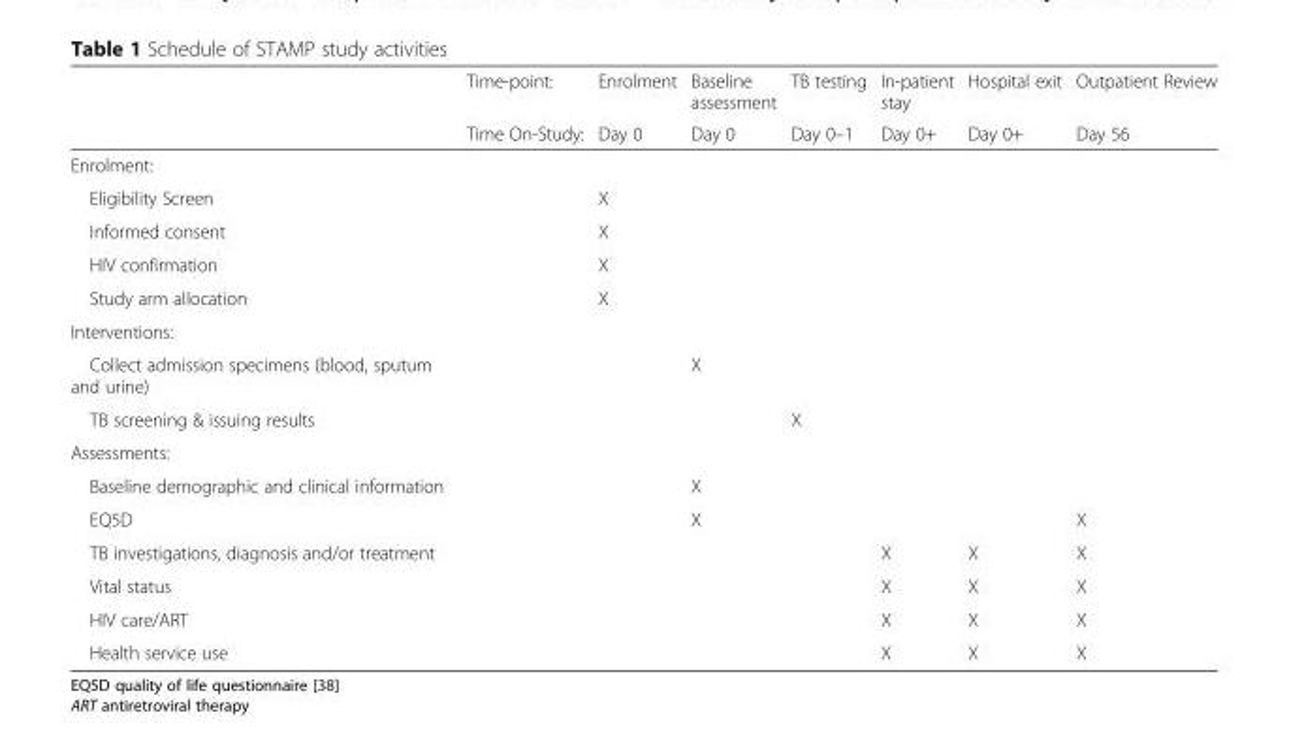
<table><thead><tr><td rowspan="2"></td><td rowspan="2">Time-point: Time On-Study:</td><td rowspan="2">Enrolment Day 0</td><td rowspan="2">Baseline assessment Day 0</td><td rowspan="2">TB testing Day 0–1</td><td rowspan="2">In-patient stay Day 0+</td><td rowspan="2">Hospital exit Day 0+</td><td rowspan="2">Outpatient Review Day 56</td></tr><tr></tr></thead><tbody><tr><td colspan="8">Enrolment:</td></tr><tr><td>Eligibility Screen</td><td></td><td>X</td><td></td><td></td><td></td><td></td><td></td></tr><tr><td>Informed consent</td><td></td><td>X</td><td></td><td></td><td></td><td></td><td></td></tr><tr><td>HIV confirmation</td><td></td><td>X</td><td></td><td></td><td></td><td></td><td></td></tr><tr><td>Study arm allocation</td><td></td><td>X</td><td></td><td></td><td></td><td></td><td></td></tr><tr><td colspan="8">Interventions:</td></tr><tr><td>Collect admission specimens (blood, sputum and urine)</td><td></td><td></td><td>X</td><td></td><td></td><td></td><td></td></tr><tr><td>TB screening &amp; issuing results</td><td></td><td></td><td></td><td>X</td><td></td><td></td><td></td></tr><tr><td colspan="8">Assessments:</td></tr><tr><td>Baseline demographic and clinical information</td><td></td><td></td><td>X</td><td></td><td></td><td></td><td></td></tr><tr><td>EQ5D</td><td></td><td></td><td>X</td><td></td><td></td><td></td><td>X</td></tr><tr><td>TB investigations, diagnosis and/or treatment</td><td></td><td></td><td></td><td></td><td>X</td><td>X</td><td>X</td></tr><tr><td>Vital status</td><td></td><td></td><td></td><td></td><td>X</td><td>X</td><td>X</td></tr><tr><td>HIV care/ART</td><td></td><td></td><td></td><td></td><td>X</td><td>X</td><td>X</td></tr><tr><td>Health service use</td><td></td><td></td><td></td><td></td><td>X</td><td>X</td><td>X</td></tr></tbody></table>